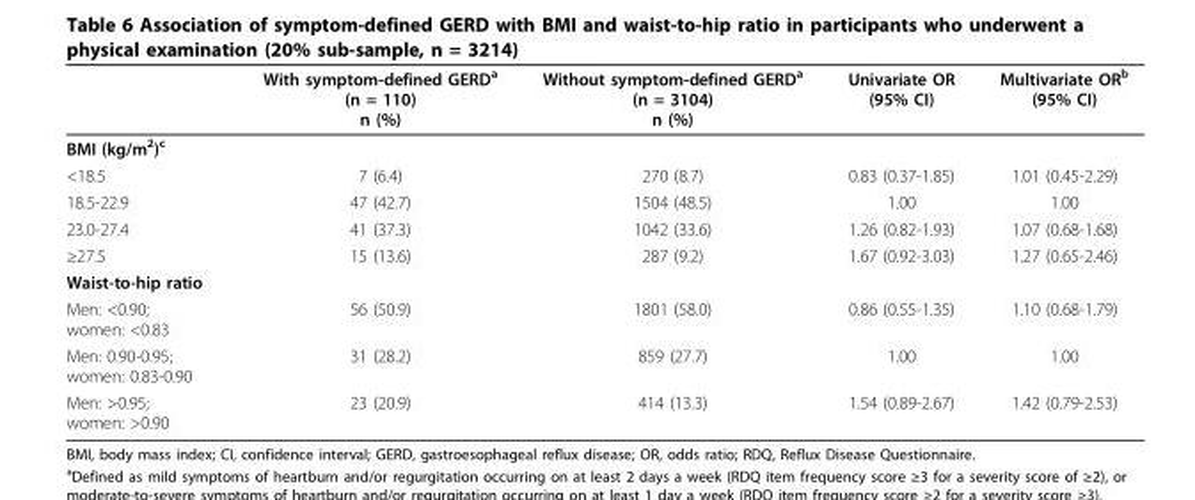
<table><thead><tr><td></td><td>With symptom-defined GERD<sup>a</sup> (n = 110) n (%)</td><td>Without symptom-defined GERD<sup>a</sup> (n = 3104) n (%)</td><td>Univariate OR (95% CI)</td><td>Multivariate OR<sup>b</sup> (95% CI)</td></tr></thead><tbody><tr><td colspan="5">BMI (kg/m<sup>2</sup>)<sup>c</sup></td></tr><tr><td>&lt;18.5</td><td>7 (6.4)</td><td>270 (8.7)</td><td>0.83 (0.37-1.85)</td><td>1.01 (0.45-2.29)</td></tr><tr><td>18.5-22.9</td><td>47 (42.7)</td><td>1504 (48.5)</td><td>1.00</td><td>1.00</td></tr><tr><td>23.0-27.4</td><td>41 (37.3)</td><td>1042 (33.6)</td><td>1.26 (0.82-1.93)</td><td>1.07 (0.68-1.68)</td></tr><tr><td>≥27.5</td><td>15 (13.6)</td><td>287 (9.2)</td><td>1.67 (0.92-3.03)</td><td>1.27 (0.65-2.46)</td></tr><tr><td colspan="5">Waist-to-hip ratio</td></tr><tr><td>Men: &lt;0.90; women: &lt;0.83</td><td>56 (50.9)</td><td>1801 (58.0)</td><td>0.86 (0.55-1.35)</td><td>1.10 (0.68-1.79)</td></tr><tr><td>Men: 0.90-0.95; women: 0.83-0.90</td><td>31 (28.2)</td><td>859 (27.7)</td><td>1.00</td><td>1.00</td></tr><tr><td>Men: &gt;0.95; women: &gt;0.90</td><td>23 (20.9)</td><td>414 (13.3)</td><td>1.54 (0.89-2.67)</td><td>1.42 (0.79-2.53)</td></tr></tbody></table>